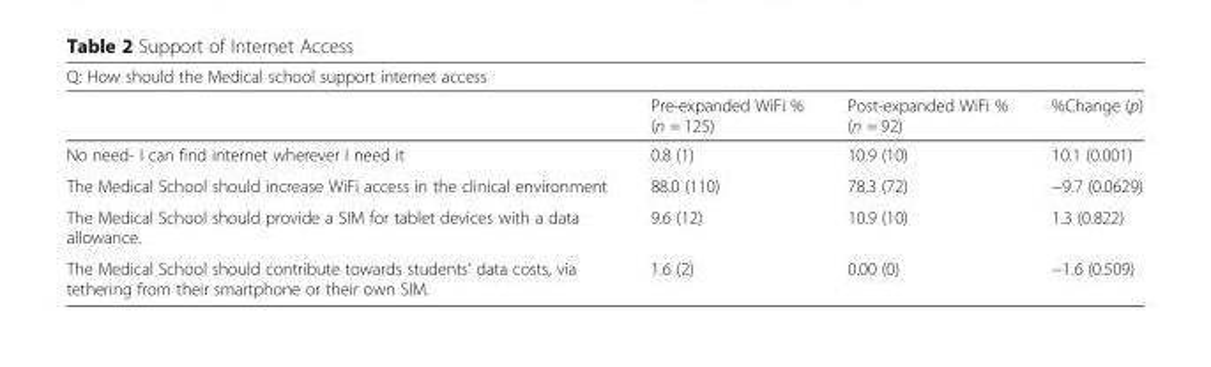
<table><thead><tr><td colspan="4">Q: How should the Medical school support internet access</td></tr><tr><td></td><td>Pre-expanded WiFi % (n = 125)</td><td>Post-expanded WiFi % (n = 92)</td><td>%Change (p)</td></tr></thead><tbody><tr><td>No need- I can find internet wherever I need it</td><td>0.8 (1)</td><td>10.9 (10)</td><td>10.1 (0.001)</td></tr><tr><td>The Medical School should increase WiFi access in the clinical environment</td><td>88.0 (110)</td><td>78.3 (72)</td><td>−9.7 (0.0629)</td></tr><tr><td>The Medical School should provide a SIM for tablet devices with a data allowance.</td><td>9.6 (12)</td><td>10.9 (10)</td><td>1.3 (0.822)</td></tr><tr><td>The Medical School should contribute towards students’ data costs, via tethering from their smartphone or their own SIM.</td><td>1.6 (2)</td><td>0.00 (0)</td><td>−1.6 (0.509)</td></tr></tbody></table>